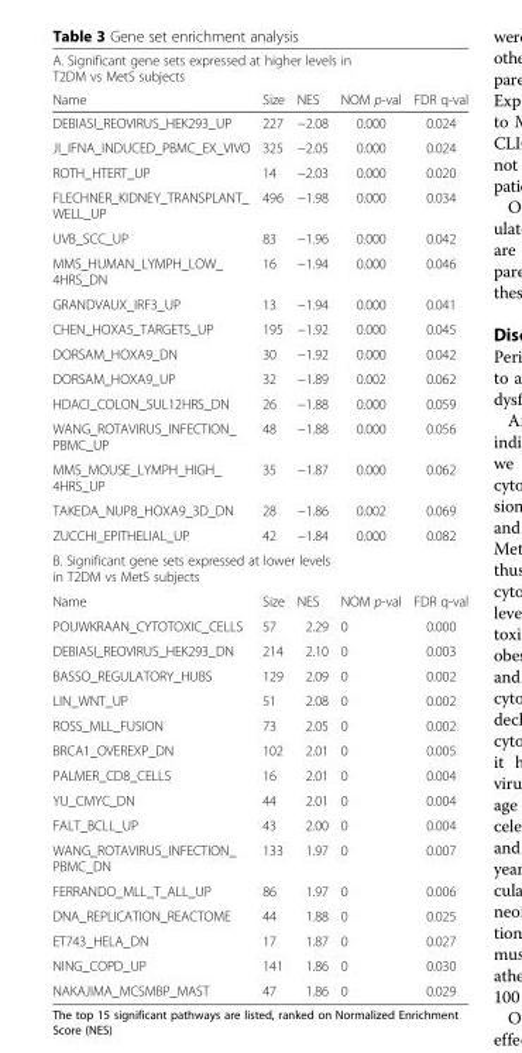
<table><thead><tr><td colspan="5">A. Significant gene sets expressed at higher levels in T2DM vs MetS subjects</td></tr><tr><td>Name</td><td>Size</td><td>NES</td><td>NOM p-val</td><td>FDR q-val</td></tr></thead><tbody><tr><td>DEBIASI_REOVIRUS_HEK293_UP</td><td>227</td><td>−2.08</td><td>0.000</td><td>0.024</td></tr><tr><td>JI_IFNA_INDUCED_PBMC_EX_VIVO</td><td>325</td><td>−2.05</td><td>0.000</td><td>0.024</td></tr><tr><td>ROTH_HTERT_UP</td><td>14</td><td>−2.03</td><td>0.000</td><td>0.020</td></tr><tr><td>FLECHNER_KIDNEY_TRANSPLANT_ WELL_UP</td><td>496</td><td>−1.98</td><td>0.000</td><td>0.034</td></tr><tr><td>UVB_SCC_UP</td><td>83</td><td>−1.96</td><td>0.000</td><td>0.042</td></tr><tr><td>MMS_HUMAN_LYMPH_LOW_ 4HRS_DN</td><td>16</td><td>−1.94</td><td>0.000</td><td>0.046</td></tr><tr><td>GRANDVAUX_IRF3_UP</td><td>13</td><td>−1.94</td><td>0.000</td><td>0.041</td></tr><tr><td>CHEN_HOXA5_TARGETS_UP</td><td>195</td><td>−1.92</td><td>0.000</td><td>0.045</td></tr><tr><td>DORSAM_HOXA9_DN</td><td>30</td><td>−1.92</td><td>0.000</td><td>0.042</td></tr><tr><td>DORSAM_HOXA9_UP</td><td>32</td><td>−1.89</td><td>0.002</td><td>0.062</td></tr><tr><td>HDACI_COLON_SUL12HRS_DN</td><td>26</td><td>−1.88</td><td>0.000</td><td>0.059</td></tr><tr><td>WANG_ROTAVIRUS_INFECTION_ PBMC_UP</td><td>48</td><td>−1.88</td><td>0.000</td><td>0.056</td></tr><tr><td>MMS_MOUSE_LYMPH_HIGH_ 4HRS_UP</td><td>35</td><td>−1.87</td><td>0.000</td><td>0.062</td></tr><tr><td>TAKEDA_NUP8_HOXA9_3D_DN</td><td>28</td><td>−1.86</td><td>0.002</td><td>0.069</td></tr><tr><td>ZUCCHI_EPITHELIAL_UP</td><td>42</td><td>−1.84</td><td>0.000</td><td>0.082</td></tr><tr><td colspan="5">B. Significant gene sets expressed at lower levels in T2DM vs MetS subjects</td></tr><tr><td>Name</td><td>Size</td><td>NES</td><td>NOM p-val</td><td>FDR q-val</td></tr><tr><td>POUWKRAAN_CYTOTOXIC_CELLS</td><td>57</td><td>2.29</td><td>0</td><td>0.000</td></tr><tr><td>DEBIASI_REOVIRUS_HEK293_DN</td><td>214</td><td>2.10</td><td>0</td><td>0.003</td></tr><tr><td>BASSO_REGULATORY_HUBS</td><td>129</td><td>2.09</td><td>0</td><td>0.002</td></tr><tr><td>LIN_WNT_UP</td><td>51</td><td>2.08</td><td>0</td><td>0.002</td></tr><tr><td>ROSS_MLL_FUSION</td><td>73</td><td>2.05</td><td>0</td><td>0.002</td></tr><tr><td>BRCA1_OVEREXP_DN</td><td>102</td><td>2.01</td><td>0</td><td>0.005</td></tr><tr><td>PALMER_CD8_CELLS</td><td>16</td><td>2.01</td><td>0</td><td>0.004</td></tr><tr><td>YU_CMYC_DN</td><td>44</td><td>2.01</td><td>0</td><td>0.004</td></tr><tr><td>FALT_BCLL_UP</td><td>43</td><td>2.00</td><td>0</td><td>0.004</td></tr><tr><td>WANG_ROTAVIRUS_INFECTION_ PBMC_DN</td><td>133</td><td>1.97</td><td>0</td><td>0.007</td></tr><tr><td>FERRANDO_MLL_T_ALL_UP</td><td>86</td><td>1.97</td><td>0</td><td>0.006</td></tr><tr><td>DNA_REPLICATION_REACTOME</td><td>44</td><td>1.88</td><td>0</td><td>0.025</td></tr><tr><td>ET743_HELA_DN</td><td>17</td><td>1.87</td><td>0</td><td>0.027</td></tr><tr><td>NING_COPD_UP</td><td>141</td><td>1.86</td><td>0</td><td>0.030</td></tr><tr><td>NAKAJIMA_MCSMBP_MAST</td><td>47</td><td>1.86</td><td>0</td><td>0.029</td></tr></tbody></table>